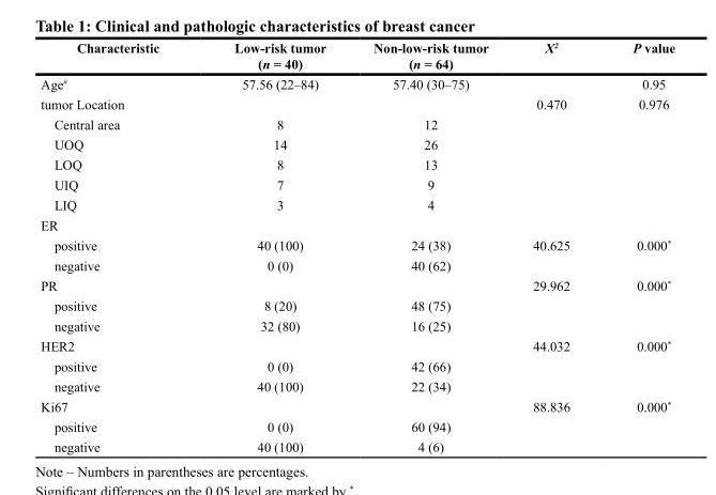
<table><thead><tr><td>Characteristic</td><td>Low-risk tumor (n = 40)</td><td>Non-low-risk tumor (n = 64)</td><td>X<sup>2</sup></td><td>P value</td></tr></thead><tbody><tr><td>Age<sup>#</sup></td><td>57.56 (22–84)</td><td>57.40 (30–75)</td><td></td><td>0.95</td></tr><tr><td>tumor Location</td><td></td><td></td><td>0.470</td><td>0.976</td></tr><tr><td>Central area</td><td>8</td><td>12</td><td></td><td></td></tr><tr><td>UOQ</td><td>14</td><td>26</td><td></td><td></td></tr><tr><td>LOQ</td><td>8</td><td>13</td><td></td><td></td></tr><tr><td>UIQ</td><td>7</td><td>9</td><td></td><td></td></tr><tr><td>LIQ</td><td>3</td><td>4</td><td></td><td></td></tr><tr><td colspan="5">ER</td></tr><tr><td>positive</td><td>40 (100)</td><td>24 (38)</td><td>40.625</td><td>0.000*</td></tr><tr><td>negative</td><td>0 (0)</td><td>40 (62)</td><td></td><td></td></tr><tr><td>PR</td><td></td><td></td><td>29.962</td><td>0.000*</td></tr><tr><td>positive</td><td>8 (20)</td><td>48 (75)</td><td></td><td></td></tr><tr><td>negative</td><td>32 (80)</td><td>16 (25)</td><td></td><td></td></tr><tr><td>HER2</td><td></td><td></td><td>44.032</td><td>0.000*</td></tr><tr><td>positive</td><td>0 (0)</td><td>42 (66)</td><td></td><td></td></tr><tr><td>negative</td><td>40 (100)</td><td>22 (34)</td><td></td><td></td></tr><tr><td>Ki67</td><td></td><td></td><td>88.836</td><td>0.000*</td></tr><tr><td>positive</td><td>0 (0)</td><td>60 (94)</td><td></td><td></td></tr><tr><td>negative</td><td>40 (100)</td><td>4 (6)</td><td></td><td></td></tr></tbody></table>